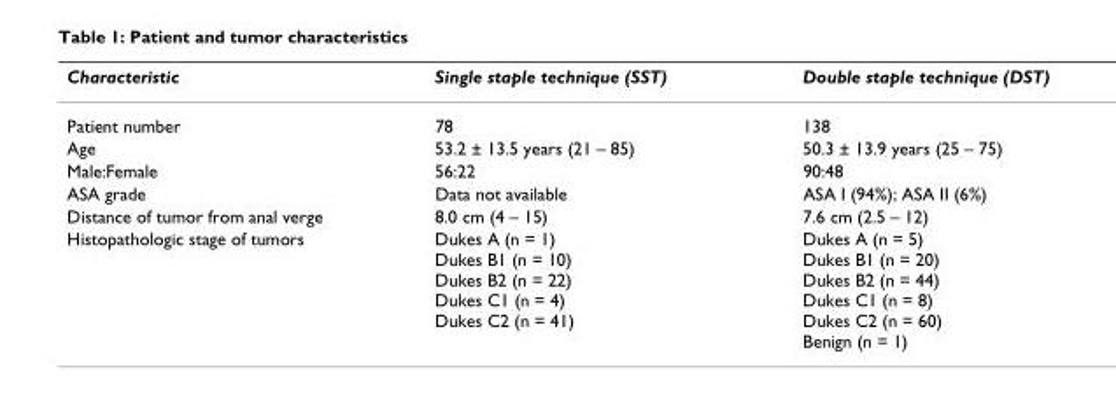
<table><thead><tr><td>Characteristic</td><td>Single staple technique (SST)</td><td>Double staple technique (DST)</td></tr></thead><tbody><tr><td>Patient number</td><td>78</td><td>138</td></tr><tr><td>Age</td><td>53.2 ± 13.5 years (21 – 85)</td><td>50.3 ± 13.9 years (25 – 75)</td></tr><tr><td>Male:Female</td><td>56:22</td><td>90:48</td></tr><tr><td>ASA grade</td><td>Data not available</td><td>ASA I (94%); ASA II (6%)</td></tr><tr><td>Distance of tumor from anal verge</td><td>8.0 cm (4 – 15)</td><td>7.6 cm (2.5 – 12)</td></tr><tr><td>Histopathologic stage of tumors</td><td>Dukes A (n = 1) Dukes B1 (n = 10) Dukes B2 (n = 22) Dukes C1 (n = 4) Dukes C2 (n = 41)</td><td>Dukes A (n = 5) Dukes B1 (n = 20) Dukes B2 (n = 44) Dukes C1 (n = 8) Dukes C2 (n = 60) Benign (n = 1)</td></tr></tbody></table>